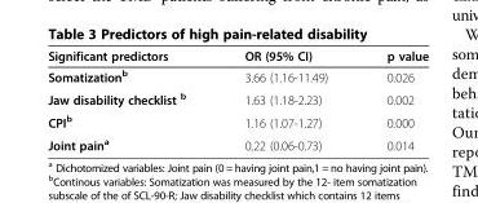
<table><thead><tr><td>Significant predictors</td><td>OR (95% CI)</td><td>p value</td></tr></thead><tbody><tr><td>Somatization<sup>b</sup></td><td>3.66 (1.16-11.49)</td><td>0.026</td></tr><tr><td>Jaw disability checklist <sup>b</sup></td><td>1.63 (1.18-2.23)</td><td>0.002</td></tr><tr><td>CPI<sup>b</sup></td><td>1.16 (1.07-1.27)</td><td>0.000</td></tr><tr><td>Joint pain<sup>a</sup></td><td>0.22 (0.06-0.73)</td><td>0.014</td></tr></tbody></table>